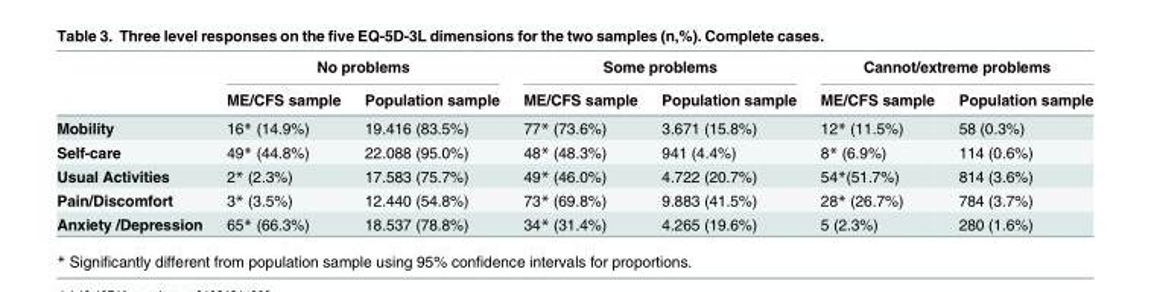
<table><thead><tr><td rowspan="2"></td><td colspan="2">No problems</td><td colspan="2">Some problems</td><td colspan="2">Cannot/extreme problems</td></tr><tr><td>ME/CFS sample</td><td>Population sample</td><td>ME/CFS sample</td><td>Population sample</td><td>ME/CFS sample</td><td>Population sample</td></tr></thead><tbody><tr><td>Mobility</td><td>16* (14.9%)</td><td>19.416 (83.5%)</td><td>77* (73.6%)</td><td>3.671 (15.8%)</td><td>12* (11.5%)</td><td>58 (0.3%)</td></tr><tr><td>Self-care</td><td>49* (44.8%)</td><td>22.088 (95.0%)</td><td>48* (48.3%)</td><td>941 (4.4%)</td><td>8* (6.9%)</td><td>114 (0.6%)</td></tr><tr><td>Usual Activities</td><td>2* (2.3%)</td><td>17.583 (75.7%)</td><td>49* (46.0%)</td><td>4.722 (20.7%)</td><td>54*(51.7%)</td><td>814 (3.6%)</td></tr><tr><td>Pain/Discomfort</td><td>3* (3.5%)</td><td>12.440 (54.8%)</td><td>73* (69.8%)</td><td>9.883 (41.5%)</td><td>28* (26.7%)</td><td>784 (3.7%)</td></tr><tr><td>Anxiety /Depression</td><td>65* (66.3%)</td><td>18.537 (78.8%)</td><td>34* (31.4%)</td><td>4.265 (19.6%)</td><td>5 (2.3%)</td><td>280 (1.6%)</td></tr></tbody></table>